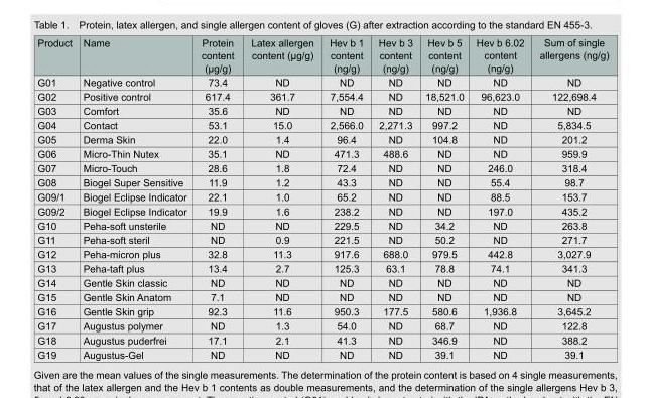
<table><thead><tr><td>Product</td><td>Name</td><td>Protein content (µg/g)</td><td>Latex allergen content (µg/g)</td><td>Hev b 1 content (ng/g)</td><td>Hev b 3 content (ng/g)</td><td>Hev b 5 content (ng/g)</td><td>Hev b 6.02 content (ng/g)</td><td>Sum of single allergens (ng/g)</td></tr></thead><tbody><tr><td>G01</td><td>Negative control</td><td>73.4</td><td>ND</td><td>ND</td><td>ND</td><td>ND</td><td>ND</td><td>ND</td></tr><tr><td>G02</td><td>Positive control</td><td>617.4</td><td>361.7</td><td>7,554.4</td><td>ND</td><td>18,521.0</td><td>96,623.0</td><td>122,698.4</td></tr><tr><td>G03</td><td>Comfort</td><td>35.6</td><td>ND</td><td>ND</td><td>ND</td><td>ND</td><td>ND</td><td>ND</td></tr><tr><td>G04</td><td>Contact</td><td>53.1</td><td>15.0</td><td>2,566.0</td><td>2,271.3</td><td>997.2</td><td>ND</td><td>5,834.5</td></tr><tr><td>G05</td><td>Derma Skin</td><td>22.0</td><td>1.4</td><td>96.4</td><td>ND</td><td>104.8</td><td>ND</td><td>201.2</td></tr><tr><td>G06</td><td>Micro-Thin Nutex</td><td>35.1</td><td>ND</td><td>471.3</td><td>488.6</td><td>ND</td><td>ND</td><td>959.9</td></tr><tr><td>G07</td><td>Micro-Touch</td><td>28.6</td><td>1.8</td><td>72.4</td><td>ND</td><td>ND</td><td>246.0</td><td>318.4</td></tr><tr><td>G08</td><td>Biogel Super Sensitive</td><td>11.9</td><td>1.2</td><td>43.3</td><td>ND</td><td>ND</td><td>55.4</td><td>98.7</td></tr><tr><td>G09/1</td><td>Biogel Eclipse Indicator</td><td>22.1</td><td>1.0</td><td>65.2</td><td>ND</td><td>ND</td><td>88.5</td><td>153.7</td></tr><tr><td>G09/2</td><td>Biogel Eclipse Indicator</td><td>19.9</td><td>1.6</td><td>238.2</td><td>ND</td><td>ND</td><td>197.0</td><td>435.2</td></tr><tr><td>G10</td><td>Peha-soft unsterile</td><td>ND</td><td>ND</td><td>229.5</td><td>ND</td><td>34.2</td><td>ND</td><td>263.8</td></tr><tr><td>G11</td><td>Peha-soft steril</td><td>ND</td><td>0.9</td><td>221.5</td><td>ND</td><td>50.2</td><td>ND</td><td>271.7</td></tr><tr><td>G12</td><td>Peha-micron plus</td><td>32.8</td><td>11.3</td><td>917.6</td><td>688.0</td><td>979.5</td><td>442.8</td><td>3,027.9</td></tr><tr><td>G13</td><td>Peha-taft plus</td><td>13.4</td><td>2.7</td><td>125.3</td><td>63.1</td><td>78.8</td><td>74.1</td><td>341.3</td></tr><tr><td>G14</td><td>Gentle Skin classic</td><td>ND</td><td>ND</td><td>ND</td><td>ND</td><td>ND</td><td>ND</td><td>ND</td></tr><tr><td>G15</td><td>Gentle Skin Anatom</td><td>7.1</td><td>ND</td><td>ND</td><td>ND</td><td>ND</td><td>ND</td><td>ND</td></tr><tr><td>G16</td><td>Gentle Skin grip</td><td>92.3</td><td>11.6</td><td>950.3</td><td>177.5</td><td>580.6</td><td>1,936.8</td><td>3,645.2</td></tr><tr><td>G17</td><td>Augustus polymer</td><td>ND</td><td>1.3</td><td>54.0</td><td>ND</td><td>68.7</td><td>ND</td><td>122.8</td></tr><tr><td>G18</td><td>Augustus puderfrei</td><td>17.1</td><td>2.1</td><td>41.3</td><td>ND</td><td>346.9</td><td>ND</td><td>388.2</td></tr><tr><td>G19</td><td>Augustus-Gel</td><td>ND</td><td>ND</td><td>ND</td><td>ND</td><td>39.1</td><td>ND</td><td>39.1</td></tr></tbody></table>